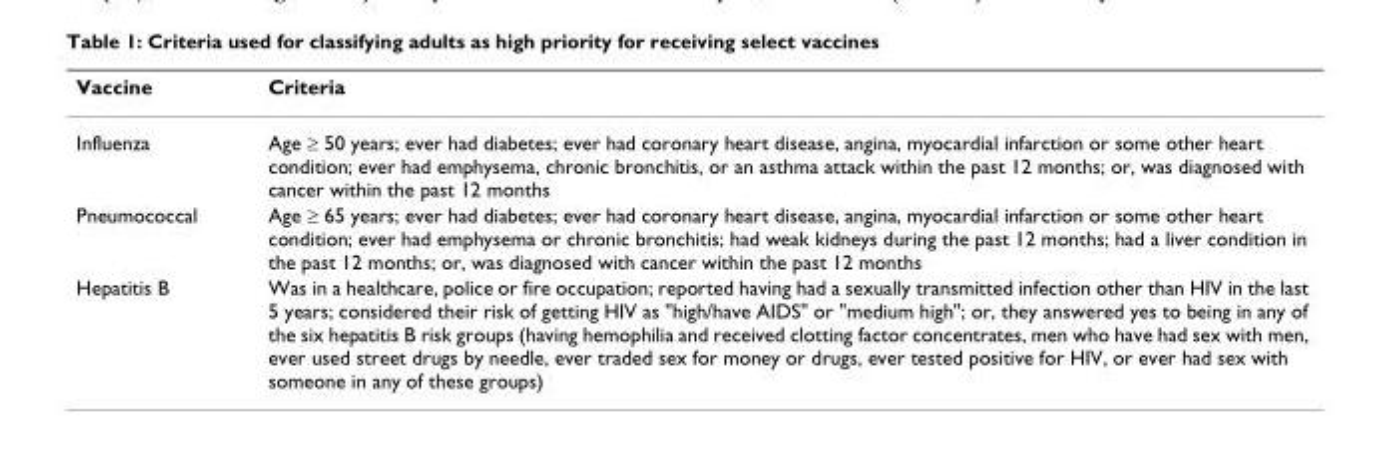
<table><thead><tr><td>Vaccine</td><td>Criteria</td></tr></thead><tbody><tr><td>Influenza</td><td>Age ≥ 50 years; ever had diabetes; ever had coronary heart disease, angina, myocardial infarction or some other heart condition; ever had emphysema, chronic bronchitis, or an asthma attack within the past 12 months; or, was diagnosed with cancer within the past 12 months</td></tr><tr><td>Pneumococcal</td><td>Age ≥ 65 years; ever had diabetes; ever had coronary heart disease, angina, myocardial infarction or some other heart condition; ever had emphysema or chronic bronchitis; had weak kidneys during the past 12 months; had a liver condition in the past 12 months; or, was diagnosed with cancer within the past 12 months</td></tr><tr><td>Hepatitis B</td><td>Was in a healthcare, police or fire occupation; reported having had a sexually transmitted infection other than HIV in the last 5 years; considered their risk of getting HIV as &quot;high/have AIDS&quot; or &quot;medium high&quot;; or, they answered yes to being in any of the six hepatitis B risk groups (having hemophilia and received clotting factor concentrates, men who have had sex with men, ever used street drugs by needle, ever traded sex for money or drugs, ever tested positive for HIV, or ever had sex with someone in any of these groups)</td></tr></tbody></table>